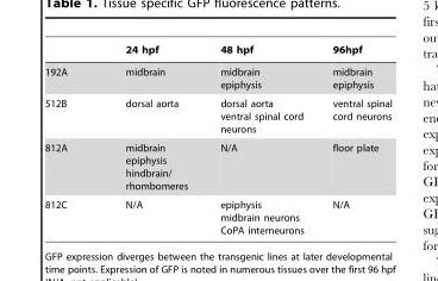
<table><thead><tr><td></td><td>24 hpf</td><td>48 hpf</td><td>96hpf</td></tr></thead><tbody><tr><td>192A</td><td>midbrain</td><td>midbrain epiphysis</td><td>midbrain epiphysis</td></tr><tr><td>512B</td><td>dorsal aorta</td><td>dorsal aorta ventral spinal cord neurons</td><td>ventral spinal cord neurons</td></tr><tr><td>812A</td><td>midbrain epiphysis hindbrain/ rhombomeres</td><td>N/A</td><td>floor plate</td></tr><tr><td>812C</td><td>N/A</td><td>epiphysis midbrain neurons CoPA interneurons</td><td>N/A</td></tr></tbody></table>